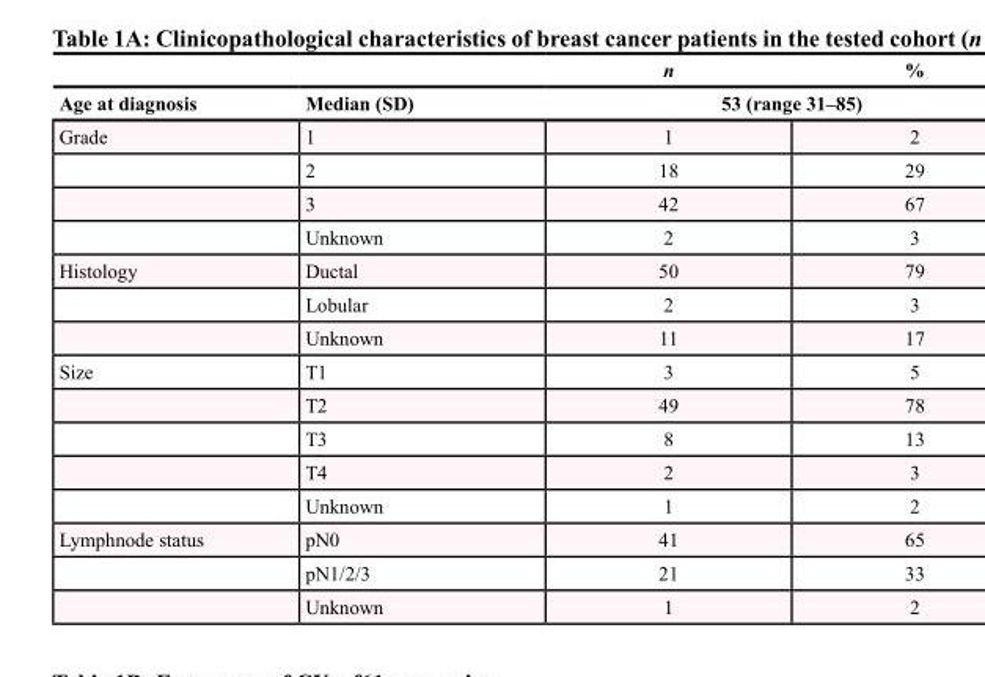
<table><thead><tr><td rowspan="2">Age at diagnosis</td><td rowspan="2">Median (SD)</td><td>n</td><td>%</td></tr><tr><td colspan="2">53 (range 31–85)</td></tr></thead><tbody><tr><td rowspan="4">Grade</td><td>1</td><td>1</td><td>2</td></tr><tr><td>2</td><td>18</td><td>29</td></tr><tr><td>3</td><td>42</td><td>67</td></tr><tr><td>Unknown</td><td>2</td><td>3</td></tr><tr><td rowspan="3">Histology</td><td>Ductal</td><td>50</td><td>79</td></tr><tr><td>Lobular</td><td>2</td><td>3</td></tr><tr><td>Unknown</td><td>11</td><td>17</td></tr><tr><td rowspan="5">Size</td><td>T1</td><td>3</td><td>5</td></tr><tr><td>T2</td><td>49</td><td>78</td></tr><tr><td>T3</td><td>8</td><td>13</td></tr><tr><td>T4</td><td>2</td><td>3</td></tr><tr><td>Unknown</td><td>1</td><td>2</td></tr><tr><td rowspan="3">Lymphnode status</td><td>pN0</td><td>41</td><td>65</td></tr><tr><td>pN1/2/3</td><td>21</td><td>33</td></tr><tr><td>Unknown</td><td>1</td><td>2</td></tr></tbody></table>